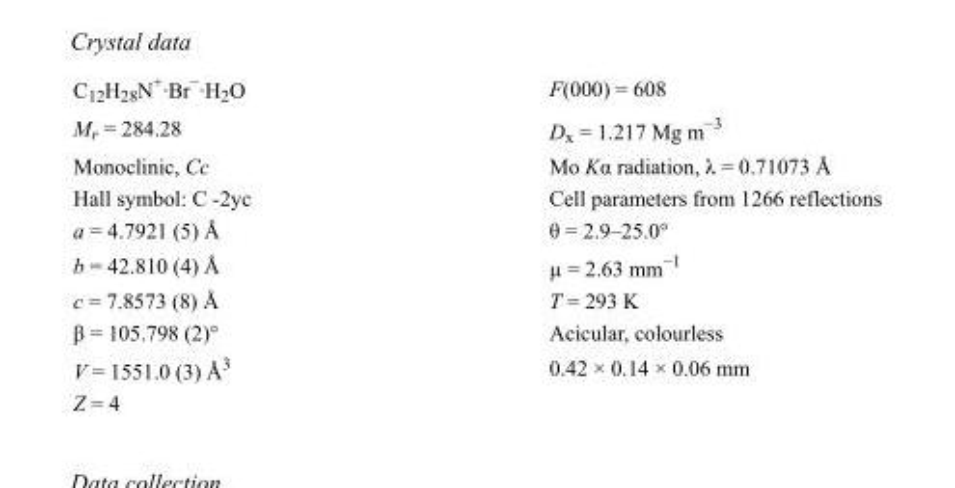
<table><tbody><tr><td>C<sub>12</sub>H<sub>28</sub>N<sup>+</sup>·Br<sup>−</sup>·H<sub>2</sub>O</td><td>F(000) = 608</td></tr><tr><td>M<sub>r</sub> = 284.28</td><td>D<sub>x</sub> = 1.217 Mg m<sup>−3</sup></td></tr><tr><td>Monoclinic, Cc</td><td>Mo Kα radiation, λ = 0.71073 Å</td></tr><tr><td>Hall symbol: C -2yc</td><td>Cell parameters from 1266 reflections</td></tr><tr><td>a = 4.7921 (5) Å</td><td>θ = 2.9–25.0°</td></tr><tr><td>b = 42.810 (4) Å</td><td>µ = 2.63 mm<sup>−1</sup></td></tr><tr><td>c = 7.8573 (8) Å</td><td>T = 293 K</td></tr><tr><td>β = 105.798 (2)°</td><td>Acicular, colourless</td></tr><tr><td>V = 1551.0 (3) Å<sup>3</sup></td><td>0.42 × 0.14 × 0.06 mm</td></tr><tr><td>Z = 4</td><td></td></tr></tbody></table>